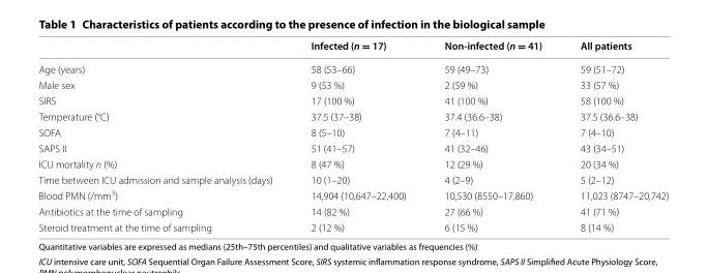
<table><thead><tr><td></td><td>Infected (n = 17)</td><td>Non-infected (n = 41)</td><td>All patients</td></tr></thead><tbody><tr><td>Age (years)</td><td>58 (53–66)</td><td>59 (49–73)</td><td>59 (51–72)</td></tr><tr><td>Male sex</td><td>9 (53 %)</td><td>2 (59 %)</td><td>33 (57 %)</td></tr><tr><td>SIRS</td><td>17 (100 %)</td><td>41 (100 %)</td><td>58 (100 %)</td></tr><tr><td>Temperature (°C)</td><td>37.5 (37–38)</td><td>37.4 (36.6–38)</td><td>37.5 (36.6–38)</td></tr><tr><td>SOFA</td><td>8 (5–10)</td><td>7 (4–11)</td><td>7 (4–10)</td></tr><tr><td>SAPS II</td><td>51 (41–57)</td><td>41 (32–46)</td><td>43 (34–51)</td></tr><tr><td>ICU mortality n (%)</td><td>8 (47 %)</td><td>12 (29 %)</td><td>20 (34 %)</td></tr><tr><td>Time between ICU admission and sample analysis (days)</td><td>10 (1–20)</td><td>4 (2–9)</td><td>5 (2–12)</td></tr><tr><td>Blood PMN (/mm<sup>3</sup>)</td><td>14,904 (10,647–22,400)</td><td>10,530 (8550–17,860)</td><td>11,023 (8747–20,742)</td></tr><tr><td>Antibiotics at the time of sampling</td><td>14 (82 %)</td><td>27 (66 %)</td><td>41 (71 %)</td></tr><tr><td>Steroid treatment at the time of sampling</td><td>2 (12 %)</td><td>6 (15 %)</td><td>8 (14 %)</td></tr></tbody></table>